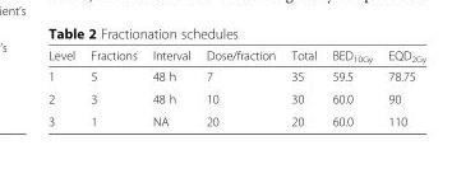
<table><thead><tr><td>Level</td><td>Fractions</td><td>Interval</td><td>Dose/fraction</td><td>Total</td><td>BED<sub>10Gy</sub></td><td>EQD<sub>2Gy</sub></td></tr></thead><tbody><tr><td>1</td><td>5</td><td>48 h</td><td>7</td><td>35</td><td>59.5</td><td>78.75</td></tr><tr><td>2</td><td>3</td><td>48 h</td><td>10</td><td>30</td><td>60.0</td><td>90</td></tr><tr><td>3</td><td>1</td><td>NA</td><td>20</td><td>20</td><td>60.0</td><td>110</td></tr></tbody></table>